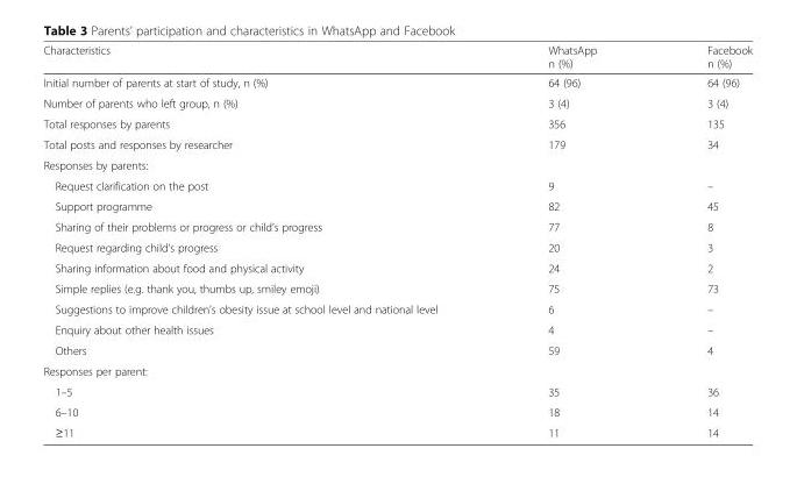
<table><thead><tr><td>Characteristics</td><td>WhatsApp n (%)</td><td>Facebook n (%)</td></tr></thead><tbody><tr><td>Initial number of parents at start of study, n (%)</td><td>64 (96)</td><td>64 (96)</td></tr><tr><td>Number of parents who left group, n (%)</td><td>3 (4)</td><td>3 (4)</td></tr><tr><td>Total responses by parents</td><td>356</td><td>135</td></tr><tr><td>Total posts and responses by researcher</td><td>179</td><td>34</td></tr><tr><td colspan="3">Responses by parents:</td></tr><tr><td>Request clarification on the post</td><td>9</td><td>–</td></tr><tr><td>Support programme</td><td>82</td><td>45</td></tr><tr><td>Sharing of their problems or progress or child’s progress</td><td>77</td><td>8</td></tr><tr><td>Request regarding child’s progress</td><td>20</td><td>3</td></tr><tr><td>Sharing information about food and physical activity</td><td>24</td><td>2</td></tr><tr><td>Simple replies (e.g. thank you, thumbs up, smiley emoji)</td><td>75</td><td>73</td></tr><tr><td>Suggestions to improve children’s obesity issue at school level and national level</td><td>6</td><td>–</td></tr><tr><td>Enquiry about other health issues</td><td>4</td><td>–</td></tr><tr><td>Others</td><td>59</td><td>4</td></tr><tr><td colspan="3">Responses per parent:</td></tr><tr><td>1–5</td><td>35</td><td>36</td></tr><tr><td>6–10</td><td>18</td><td>14</td></tr><tr><td>≥11</td><td>11</td><td>14</td></tr></tbody></table>